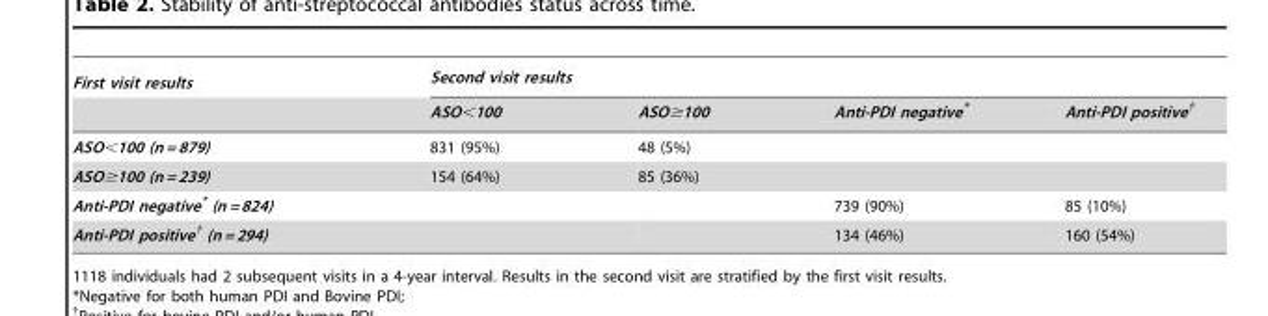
<table><thead><tr><td rowspan="2">First visit results</td><td colspan="4">Second visit results</td></tr><tr><td>ASO&lt;100</td><td>ASO≥100</td><td>Anti-PDI negative*</td><td>Anti-PDI positive†</td></tr></thead><tbody><tr><td>ASO&lt;100 (n = 879)</td><td>831 (95%)</td><td>48 (5%)</td><td></td><td></td></tr><tr><td>ASO≥100 (n = 239)</td><td>154 (64%)</td><td>85 (36%)</td><td></td><td></td></tr><tr><td>Anti-PDI negative* (n = 824)</td><td></td><td></td><td>739 (90%)</td><td>85 (10%)</td></tr><tr><td>Anti-PDI positive† (n = 294)</td><td></td><td></td><td>134 (46%)</td><td>160 (54%)</td></tr></tbody></table>